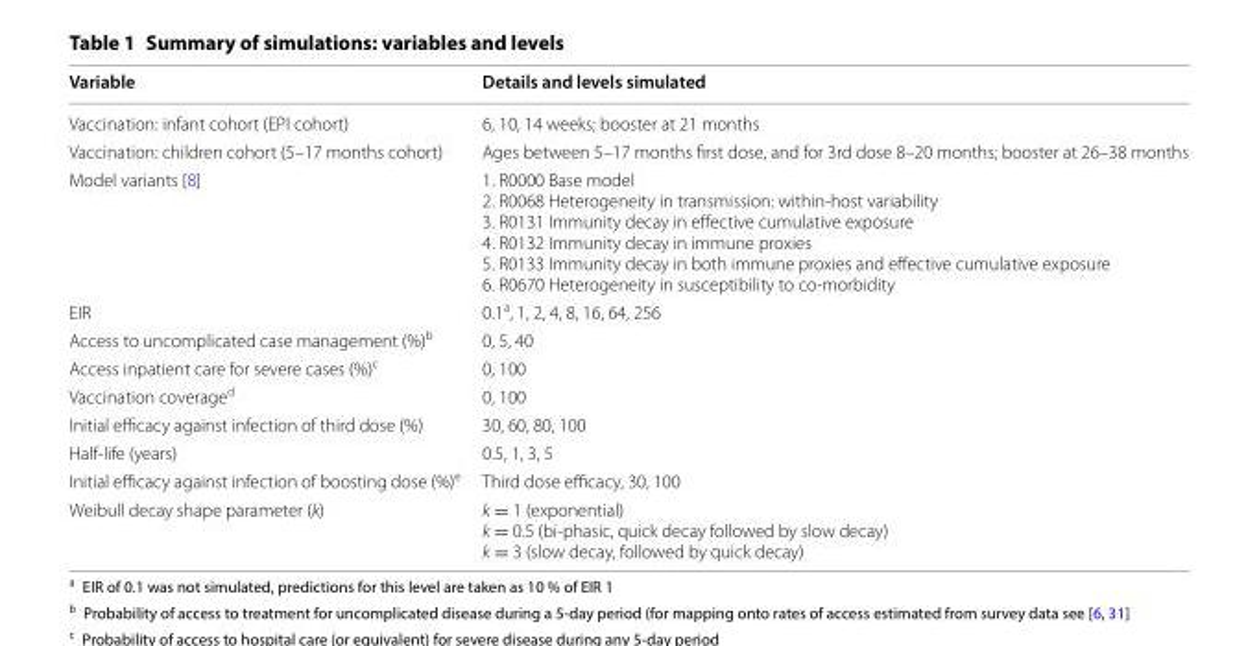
<table><thead><tr><td>Variable</td><td>Details and levels simulated</td></tr></thead><tbody><tr><td>Vaccination: infant cohort (EPI cohort)</td><td>6, 10, 14 weeks; booster at 21 months</td></tr><tr><td>Vaccination: children cohort (5–17 months cohort)</td><td>Ages between 5–17 months first dose, and for 3rd dose 8–20 months; booster at 26–38 months</td></tr><tr><td>Model variants [8]</td><td>1. R0000 Base model 2. R0068 Heterogeneity in transmission: within‑host variability 3. R0131 Immunity decay in effective cumulative exposure 4. R0132 Immunity decay in immune proxies 5. R0133 Immunity decay in both immune proxies and effective cumulative exposure 6. R0670 Heterogeneity in susceptibility to co‑morbidity</td></tr><tr><td>EIR</td><td>0.1<sup>a</sup>, 1, 2, 4, 8, 16, 64, 256</td></tr><tr><td>Access to uncomplicated case management (%)<sup>b</sup></td><td>0, 5, 40</td></tr><tr><td>Access inpatient care for severe cases (%)<sup>c</sup></td><td>0, 100</td></tr><tr><td>Vaccination coverage<sup>d</sup></td><td>0, 100</td></tr><tr><td>Initial efficacy against infection of third dose (%)</td><td>30, 60, 80, 100</td></tr><tr><td>Half‑life (years)</td><td>0.5, 1, 3, 5</td></tr><tr><td>Initial efficacy against infection of boosting dose (%)<sup>e</sup></td><td>Third dose efficacy, 30, 100</td></tr><tr><td>Weibull decay shape parameter (k)</td><td>k = 1 (exponential) k = 0.5 (bi‑phasic, quick decay followed by slow decay) k = 3 (slow decay, followed by quick decay)</td></tr></tbody></table>